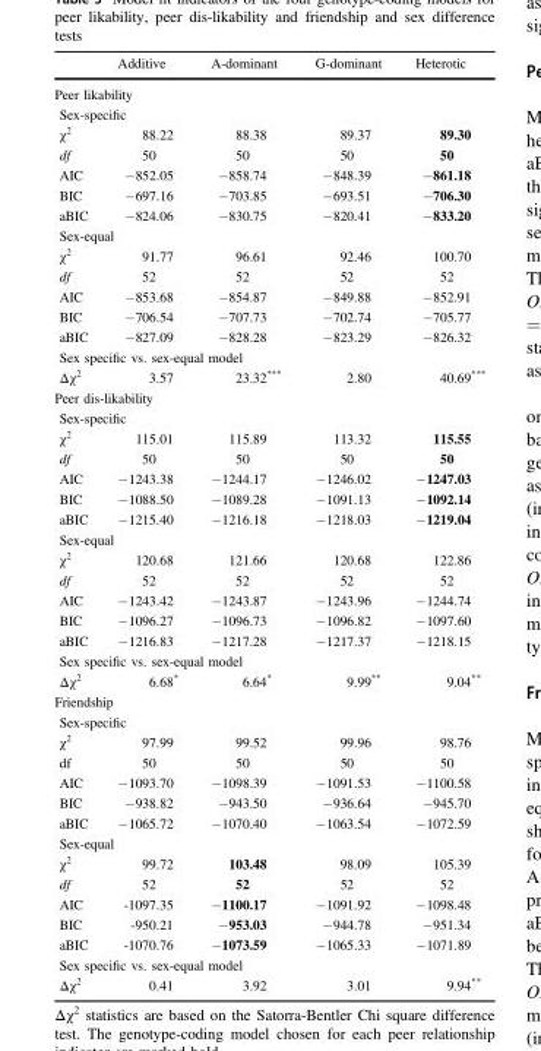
<table><thead><tr><td></td><td>Additive</td><td>A-dominant</td><td>G-dominant</td><td>Heterotic</td></tr></thead><tbody><tr><td colspan="5">Peer likability</td></tr><tr><td colspan="5">Sex-specific</td></tr><tr><td>χ<sup>2</sup></td><td>88.22</td><td>88.38</td><td>89.37</td><td>89.30</td></tr><tr><td>df</td><td>50</td><td>50</td><td>50</td><td>50</td></tr><tr><td>AIC</td><td>−852.05</td><td>−858.74</td><td>−848.39</td><td>−861.18</td></tr><tr><td>BIC</td><td>−697.16</td><td>−703.85</td><td>−693.51</td><td>−706.30</td></tr><tr><td>aBIC</td><td>−824.06</td><td>−830.75</td><td>−820.41</td><td>−833.20</td></tr><tr><td colspan="5">Sex-equal</td></tr><tr><td>χ<sup>2</sup></td><td>91.77</td><td>96.61</td><td>92.46</td><td>100.70</td></tr><tr><td>df</td><td>52</td><td>52</td><td>52</td><td>52</td></tr><tr><td>AIC</td><td>−853.68</td><td>−854.87</td><td>−849.88</td><td>−852.91</td></tr><tr><td>BIC</td><td>−706.54</td><td>−707.73</td><td>−702.74</td><td>−705.77</td></tr><tr><td>aBIC</td><td>−827.09</td><td>−828.28</td><td>−823.29</td><td>−826.32</td></tr><tr><td colspan="5">Sex specific vs. sex-equal model</td></tr><tr><td>Δχ<sup>2</sup></td><td>3.57</td><td>23.32***</td><td>2.80</td><td>40.69***</td></tr><tr><td colspan="5">Peer dis-likability</td></tr><tr><td colspan="5">Sex-specific</td></tr><tr><td>χ<sup>2</sup></td><td>115.01</td><td>115.89</td><td>113.32</td><td>115.55</td></tr><tr><td>df</td><td>50</td><td>50</td><td>50</td><td>50</td></tr><tr><td>AIC</td><td>−1243.38</td><td>−1244.17</td><td>−1246.02</td><td>−1247.03</td></tr><tr><td>BIC</td><td>−1088.50</td><td>−1089.28</td><td>−1091.13</td><td>−1092.14</td></tr><tr><td>aBIC</td><td>−1215.40</td><td>−1216.18</td><td>−1218.03</td><td>−1219.04</td></tr><tr><td colspan="5">Sex-equal</td></tr><tr><td>χ<sup>2</sup></td><td>120.68</td><td>121.66</td><td>120.68</td><td>122.86</td></tr><tr><td>df</td><td>52</td><td>52</td><td>52</td><td>52</td></tr><tr><td>AIC</td><td>−1243.42</td><td>−1243.87</td><td>−1243.96</td><td>−1244.74</td></tr><tr><td>BIC</td><td>−1096.27</td><td>−1096.73</td><td>−1096.82</td><td>−1097.60</td></tr><tr><td>aBIC</td><td>−1216.83</td><td>−1217.28</td><td>−1217.37</td><td>−1218.15</td></tr><tr><td colspan="5">Sex specific vs. sex-equal model</td></tr><tr><td>Δχ<sup>2</sup></td><td>6.68*</td><td>6.64*</td><td>9.99**</td><td>9.04**</td></tr><tr><td colspan="5">Friendship</td></tr><tr><td colspan="5">Sex-specific</td></tr><tr><td>χ<sup>2</sup></td><td>97.99</td><td>99.52</td><td>99.96</td><td>98.76</td></tr><tr><td>df</td><td>50</td><td>50</td><td>50</td><td>50</td></tr><tr><td>AIC</td><td>−1093.70</td><td>−1098.39</td><td>−1091.53</td><td>−1100.58</td></tr><tr><td>BIC</td><td>−938.82</td><td>−943.50</td><td>−936.64</td><td>−945.70</td></tr><tr><td>aBIC</td><td>−1065.72</td><td>−1070.40</td><td>−1063.54</td><td>−1072.59</td></tr><tr><td colspan="5">Sex-equal</td></tr><tr><td>χ<sup>2</sup></td><td>99.72</td><td>103.48</td><td>98.09</td><td>105.39</td></tr><tr><td>df</td><td>52</td><td>52</td><td>52</td><td>52</td></tr><tr><td>AIC</td><td>-1097.35</td><td>−1100.17</td><td>−1091.92</td><td>−1098.48</td></tr><tr><td>BIC</td><td>-950.21</td><td>−953.03</td><td>−944.78</td><td>−951.34</td></tr><tr><td>aBIC</td><td>-1070.76</td><td>−1073.59</td><td>−1065.33</td><td>−1071.89</td></tr><tr><td colspan="5">Sex specific vs. sex-equal model</td></tr><tr><td>Δχ<sup>2</sup></td><td>0.41</td><td>3.92</td><td>3.01</td><td>9.94**</td></tr></tbody></table>